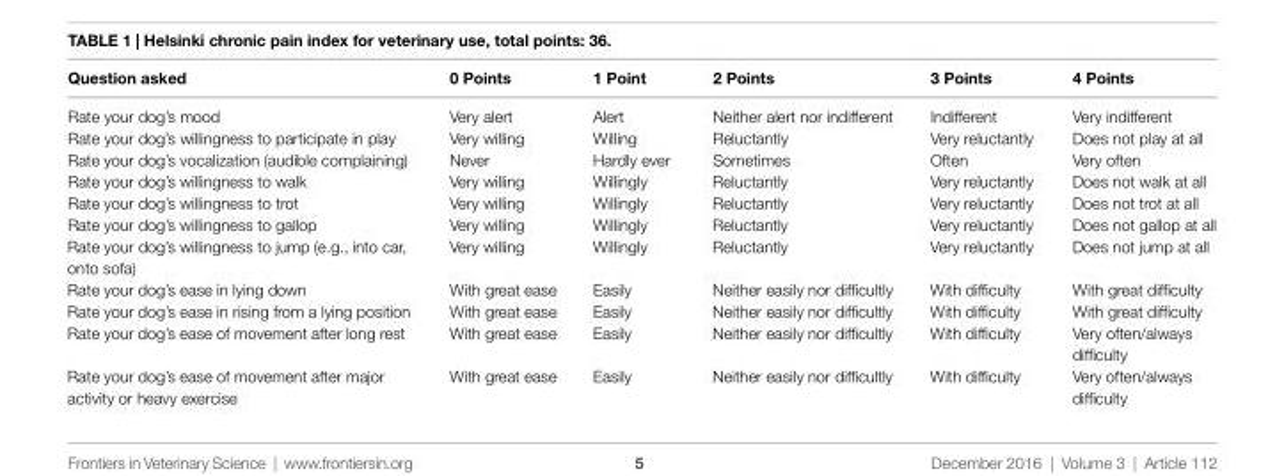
<table><thead><tr><td>Question asked</td><td>0 Points</td><td>1 Point</td><td>2 Points</td><td>3 Points</td><td>4 Points</td></tr></thead><tbody><tr><td>Rate your dog’s mood</td><td>Very alert</td><td>Alert</td><td>Neither alert nor indifferent</td><td>Indifferent</td><td>Very indifferent</td></tr><tr><td>Rate your dog’s willingness to participate in play</td><td>Very willing</td><td>Willing</td><td>Reluctantly</td><td>Very reluctantly</td><td>Does not play at all</td></tr><tr><td>Rate your dog’s vocalization (audible complaining)</td><td>Never</td><td>Hardly ever</td><td>Sometimes</td><td>Often</td><td>Very often</td></tr><tr><td>Rate your dog’s willingness to walk</td><td>Very willing</td><td>Willingly</td><td>Reluctantly</td><td>Very reluctantly</td><td>Does not walk at all</td></tr><tr><td>Rate your dog’s willingness to trot</td><td>Very willing</td><td>Willingly</td><td>Reluctantly</td><td>Very reluctantly</td><td>Does not trot at all</td></tr><tr><td>Rate your dog’s willingness to gallop</td><td>Very willing</td><td>Willingly</td><td>Reluctantly</td><td>Very reluctantly</td><td>Does not gallop at all</td></tr><tr><td>Rate your dog’s willingness to jump (e.g., into car, onto sofa)</td><td>Very willing</td><td>Willingly</td><td>Reluctantly</td><td>Very reluctantly</td><td>Does not jump at all</td></tr><tr><td>Rate your dog’s ease in lying down</td><td>With great ease</td><td>Easily</td><td>Neither easily nor difficultly</td><td>With difficulty</td><td>With great difficulty</td></tr><tr><td>Rate your dog’s ease in rising from a lying position</td><td>With great ease</td><td>Easily</td><td>Neither easily nor difficultly</td><td>With difficulty</td><td>With great difficulty</td></tr><tr><td>Rate your dog’s ease of movement after long rest</td><td>With great ease</td><td>Easily</td><td>Neither easily nor difficultly</td><td>With difficulty</td><td>Very often/always difficulty</td></tr><tr><td>Rate your dog’s ease of movement after major activity or heavy exercise</td><td>With great ease</td><td>Easily</td><td>Neither easily nor difficultly</td><td>With difficulty</td><td>Very often/always difficulty</td></tr></tbody></table>